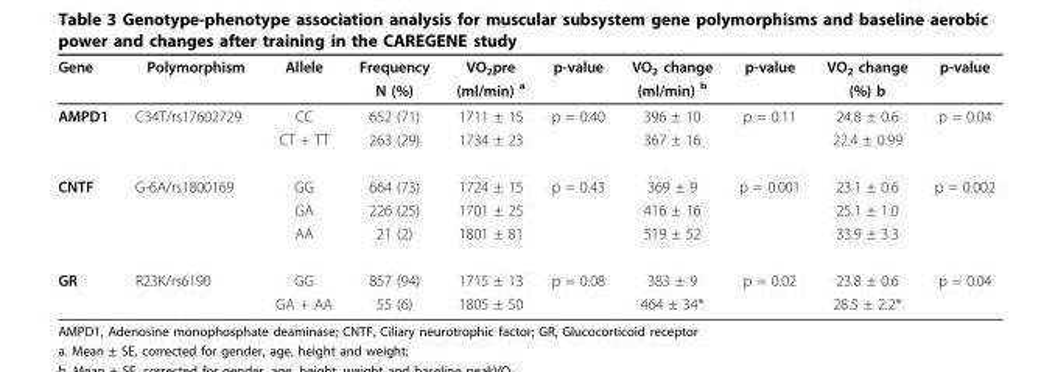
<table><thead><tr><td rowspan="2">Gene</td><td rowspan="2">Polymorphism</td><td rowspan="2">Allele</td><td rowspan="2">Frequency N (%)</td><td rowspan="2">VO<sub>2</sub>pre (ml/min) <sup>a</sup></td><td rowspan="2">p-value</td><td rowspan="2">VO<sub>2</sub> change (ml/min) <sup>b</sup></td><td rowspan="2">p-value</td><td rowspan="2">VO<sub>2</sub> change (%) b</td><td rowspan="2">p-value</td></tr><tr></tr></thead><tbody><tr><td rowspan="2">AMPD1</td><td>C34T/rs17602729</td><td>CC</td><td>652 (71)</td><td>1711 ± 15</td><td>p = 0.40</td><td>396 ± 10</td><td>p = 0.11</td><td>24.8 ± 0.6</td><td>p = 0.04</td></tr><tr><td></td><td>CT + TT</td><td>263 (29)</td><td>1734 ± 23</td><td></td><td>367 ± 16</td><td></td><td>22.4 ± 0.99</td><td></td></tr><tr><td rowspan="3">CNTF</td><td>G-6A/rs1800169</td><td>GG</td><td>664 (73)</td><td>1724 ± 15</td><td>p = 0.43</td><td>369 ± 9</td><td>p = 0.001</td><td>23.1 ± 0.6</td><td>p = 0.002</td></tr><tr><td></td><td>GA</td><td>226 (25)</td><td>1701 ± 25</td><td></td><td>416 ± 16</td><td></td><td>25.1 ± 1.0</td><td></td></tr><tr><td></td><td>AA</td><td>21 (2)</td><td>1801 ± 81</td><td></td><td>519 ± 52</td><td></td><td>33.9 ± 3.3</td><td></td></tr><tr><td rowspan="2">GR</td><td>R23K/rs6190</td><td>GG</td><td>857 (94)</td><td>1715 ± 13</td><td>p = 0.08</td><td>383 ± 9</td><td>p = 0.02</td><td>23.8 ± 0.6</td><td>p = 0.04</td></tr><tr><td></td><td>GA + AA</td><td>55 (6)</td><td>1805 ± 50</td><td></td><td>464 ± 34*</td><td></td><td>28.5 ± 2.2*</td><td></td></tr></tbody></table>